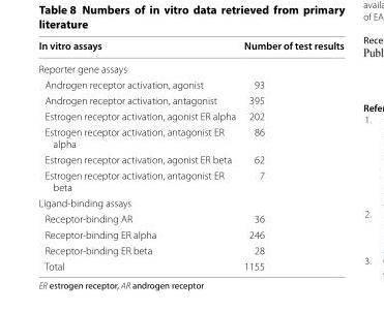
<table><thead><tr><td>In vitro assays</td><td>Number of test results</td></tr></thead><tbody><tr><td colspan="2">Reporter gene assays</td></tr><tr><td>Androgen receptor activation, agonist</td><td>93</td></tr><tr><td>Androgen receptor activation, antagonist</td><td>395</td></tr><tr><td>Estrogen receptor activation, agonist ER alpha</td><td>202</td></tr><tr><td>Estrogen receptor activation, antagonist ER alpha</td><td>86</td></tr><tr><td>Estrogen receptor activation, agonist ER beta</td><td>62</td></tr><tr><td>Estrogen receptor activation, antagonist ER beta</td><td>7</td></tr><tr><td colspan="2">Ligand-binding assays</td></tr><tr><td>Receptor-binding AR</td><td>36</td></tr><tr><td>Receptor-binding ER alpha</td><td>246</td></tr><tr><td>Receptor-binding ER beta</td><td>28</td></tr><tr><td>Total</td><td>1155</td></tr></tbody></table>